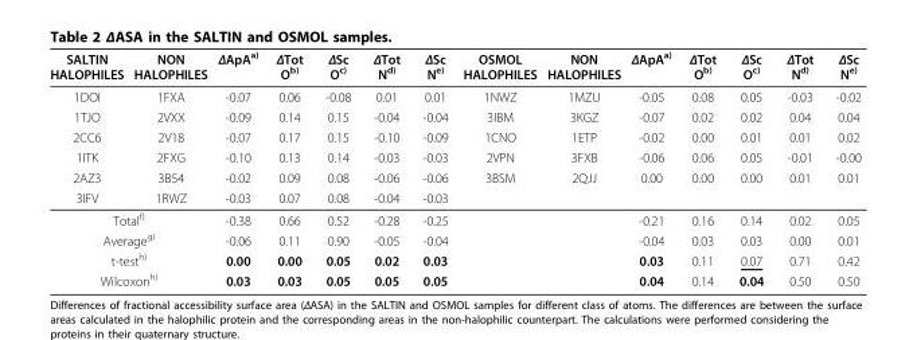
<table><thead><tr><td>SALTIN HALOPHILES</td><td>NON HALOPHILES</td><td>ΔApA<sup>a)</sup></td><td>ΔTot O<sup>b)</sup></td><td>ΔSc O<sup>c)</sup></td><td>ΔTot N<sup>d)</sup></td><td>ΔSc N<sup>e)</sup></td><td>OSMOL HALOPHILES</td><td>NON HALOPHILES</td><td>ΔApA<sup>a)</sup></td><td>ΔTot O<sup>b)</sup></td><td>ΔSc O<sup>c)</sup></td><td>ΔTot N<sup>d)</sup></td><td>ΔSc N<sup>e)</sup></td></tr></thead><tbody><tr><td>1DOI</td><td>1FXA</td><td>-0.07</td><td>0.06</td><td>-0.08</td><td>0.01</td><td>0.01</td><td>1NWZ</td><td>1MZU</td><td>-0.05</td><td>0.08</td><td>0.05</td><td>-0.03</td><td>-0.02</td></tr><tr><td>1TJO</td><td>2VXX</td><td>-0.09</td><td>0.14</td><td>0.15</td><td>-0.04</td><td>-0.04</td><td>3IBM</td><td>3KGZ</td><td>-0.07</td><td>0.02</td><td>0.02</td><td>0.04</td><td>0.04</td></tr><tr><td>2CC6</td><td>2V18</td><td>-0.07</td><td>0.17</td><td>0.15</td><td>-0.10</td><td>-0.09</td><td>1CNO</td><td>1ETP</td><td>-0.02</td><td>0.00</td><td>0.01</td><td>0.01</td><td>0.02</td></tr><tr><td>1ITK</td><td>2FXG</td><td>-0.10</td><td>0.13</td><td>0.14</td><td>-0.03</td><td>-0.03</td><td>2VPN</td><td>3FXB</td><td>-0.06</td><td>0.06</td><td>0.05</td><td>-0.01</td><td>-0.00</td></tr><tr><td>2AZ3</td><td>3B54</td><td>-0.02</td><td>0.09</td><td>0.08</td><td>-0.06</td><td>-0.06</td><td>3BSM</td><td>2QJJ</td><td>0.00</td><td>0.00</td><td>0.00</td><td>0.01</td><td>0.01</td></tr><tr><td>3IFV</td><td>1RWZ</td><td>-0.03</td><td>0.07</td><td>0.08</td><td>-0.04</td><td>-0.03</td><td></td><td></td><td></td><td></td><td></td><td></td><td></td></tr><tr><td colspan="2">Total<sup>f)</sup></td><td>-0.38</td><td>0.66</td><td>0.52</td><td>-0.28</td><td>-0.25</td><td></td><td></td><td>-0.21</td><td>0.16</td><td>0.14</td><td>0.02</td><td>0.05</td></tr><tr><td colspan="2">Average<sup>g)</sup></td><td>-0.06</td><td>0.11</td><td>0.90</td><td>-0.05</td><td>-0.04</td><td></td><td></td><td>-0.04</td><td>0.03</td><td>0.03</td><td>0.00</td><td>0.01</td></tr><tr><td colspan="2">t-test<sup>h)</sup></td><td>0.00</td><td>0.00</td><td>0.05</td><td>0.02</td><td>0.03</td><td></td><td></td><td>0.03</td><td>0.11</td><td>0.07</td><td>0.71</td><td>0.42</td></tr><tr><td colspan="2">Wilcoxon<sup>h)</sup></td><td>0.03</td><td>0.03</td><td>0.05</td><td>0.05</td><td>0.05</td><td></td><td></td><td>0.04</td><td>0.14</td><td>0.04</td><td>0.50</td><td>0.50</td></tr></tbody></table>